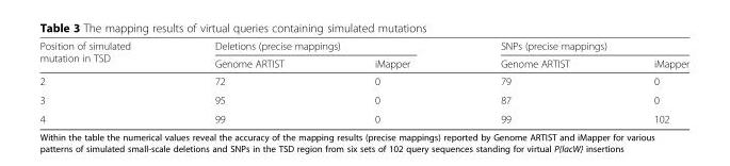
<table><thead><tr><td rowspan="2">Position of simulated mutation in TSD</td><td colspan="2">Deletions (precise mappings)</td><td colspan="2">SNPs (precise mappings)</td></tr><tr><td>Genome ARTIST</td><td>iMapper</td><td>Genome ARTIST</td><td>iMapper</td></tr></thead><tbody><tr><td>2</td><td>72</td><td>0</td><td>79</td><td>0</td></tr><tr><td>3</td><td>95</td><td>0</td><td>87</td><td>0</td></tr><tr><td>4</td><td>99</td><td>0</td><td>99</td><td>102</td></tr></tbody></table>